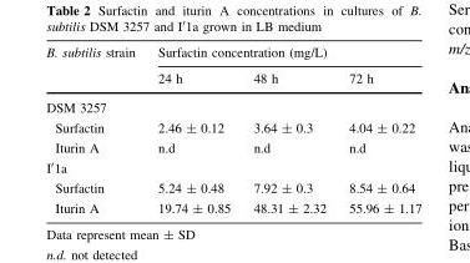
<table><thead><tr><td rowspan="2">B. subtilis strain</td><td colspan="3">Surfactin concentration (mg/L)</td></tr><tr><td>24 h</td><td>48 h</td><td>72 h</td></tr></thead><tbody><tr><td colspan="4">DSM 3257</td></tr><tr><td>Surfactin</td><td>2.46 ± 0.12</td><td>3.64 ± 0.3</td><td>4.04 ± 0.22</td></tr><tr><td>Iturin A</td><td>n.d</td><td>n.d</td><td>n.d</td></tr><tr><td colspan="4">I′1a</td></tr><tr><td>Surfactin</td><td>5.24 ± 0.48</td><td>7.92 ± 0.3</td><td>8.54 ± 0.64</td></tr><tr><td>Iturin A</td><td>19.74 ± 0.85</td><td>48.31 ± 2.32</td><td>55.96 ± 1.17</td></tr></tbody></table>